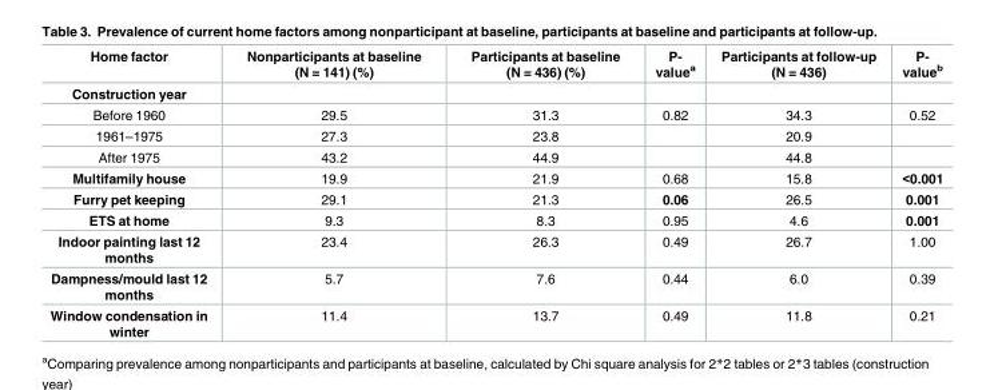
<table><thead><tr><td>Home factor</td><td>Nonparticipants at baseline (N = 141) (%)</td><td>Participants at baseline (N = 436) (%)</td><td>P- value<sup>a</sup></td><td>Participants at follow-up (N = 436)</td><td>P- value<sup>b</sup></td></tr></thead><tbody><tr><td colspan="6">Construction year</td></tr><tr><td>Before 1960</td><td>29.5</td><td>31.3</td><td>0.82</td><td>34.3</td><td>0.52</td></tr><tr><td>1961–1975</td><td>27.3</td><td>23.8</td><td></td><td>20.9</td><td></td></tr><tr><td>After 1975</td><td>43.2</td><td>44.9</td><td></td><td>44.8</td><td></td></tr><tr><td>Multifamily house</td><td>19.9</td><td>21.9</td><td>0.68</td><td>15.8</td><td>&lt;0.001</td></tr><tr><td>Furry pet keeping</td><td>29.1</td><td>21.3</td><td>0.06</td><td>26.5</td><td>0.001</td></tr><tr><td>ETS at home</td><td>9.3</td><td>8.3</td><td>0.95</td><td>4.6</td><td>0.001</td></tr><tr><td>Indoor painting last 12 months</td><td>23.4</td><td>26.3</td><td>0.49</td><td>26.7</td><td>1.00</td></tr><tr><td>Dampness/mould last 12 months</td><td>5.7</td><td>7.6</td><td>0.44</td><td>6.0</td><td>0.39</td></tr><tr><td>Window condensation in winter</td><td>11.4</td><td>13.7</td><td>0.49</td><td>11.8</td><td>0.21</td></tr></tbody></table>